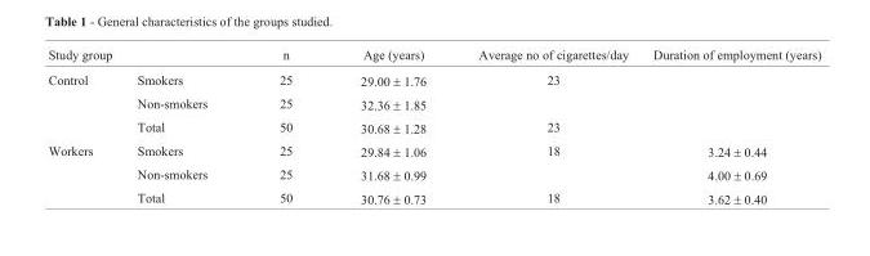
<table><thead><tr><td>Study group</td><td></td><td>n</td><td>Age (years)</td><td>Average no of cigarettes/day</td><td>Duration of employment (years)</td></tr></thead><tbody><tr><td rowspan="3">Control</td><td>Smokers</td><td>25</td><td>29.00 ± 1.76</td><td>23</td><td></td></tr><tr><td>Non-smokers</td><td>25</td><td>32.36 ± 1.85</td><td></td><td></td></tr><tr><td>Total</td><td>50</td><td>30.68 ± 1.28</td><td>23</td><td></td></tr><tr><td rowspan="3">Workers</td><td>Smokers</td><td>25</td><td>29.84 ± 1.06</td><td>18</td><td>3.24 ± 0.44</td></tr><tr><td>Non-smokers</td><td>25</td><td>31.68 ± 0.99</td><td></td><td>4.00 ± 0.69</td></tr><tr><td>Total</td><td>50</td><td>30.76 ± 0.73</td><td>18</td><td>3.62 ± 0.40</td></tr></tbody></table>